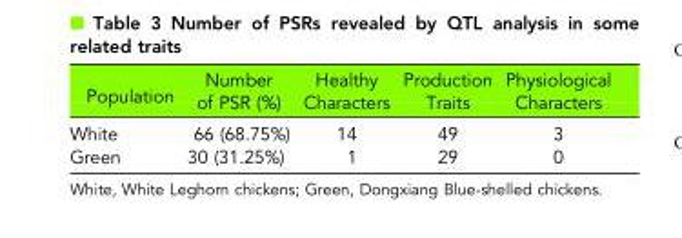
<table><thead><tr><td>Population</td><td>Number of PSR (%)</td><td>Healthy Characters</td><td>Production Traits</td><td>Physiological Characters</td></tr></thead><tbody><tr><td>White</td><td>66 (68.75%)</td><td>14</td><td>49</td><td>3</td></tr><tr><td>Green</td><td>30 (31.25%)</td><td>1</td><td>29</td><td>0</td></tr></tbody></table>